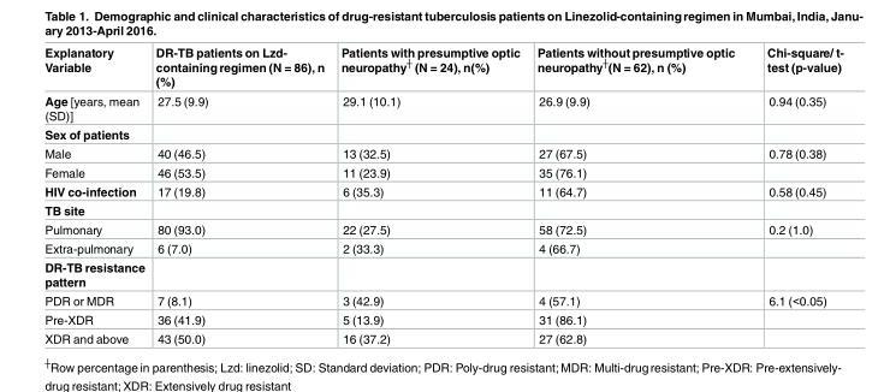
<table><thead><tr><td>Explanatory Variable</td><td>DR-TB patients on Lzd- containingregimen (N = 86), n (%)</td><td>Patients with presumptive optic neuropathy<sup>┼</sup> (N = 24), n(%)</td><td>Patients without presumptive optic neuropathy<sup>┼</sup>(N = 62), n (%)</td><td>Chi-square/ t- test (p-value)</td></tr></thead><tbody><tr><td>Age [years, mean (SD)]</td><td>27.5 (9.9)</td><td>29.1 (10.1)</td><td>26.9 (9.9)</td><td>0.94 (0.35)</td></tr><tr><td colspan="5">Sex of patients</td></tr><tr><td>Male</td><td>40 (46.5)</td><td>13 (32.5)</td><td>27 (67.5)</td><td>0.78 (0.38)</td></tr><tr><td>Female</td><td>46 (53.5)</td><td>11 (23.9)</td><td>35 (76.1)</td><td></td></tr><tr><td>HIV co-infection</td><td>17 (19.8)</td><td>6 (35.3)</td><td>11 (64.7)</td><td>0.58 (0.45)</td></tr><tr><td colspan="5">TB site</td></tr><tr><td>Pulmonary</td><td>80 (93.0)</td><td>22 (27.5)</td><td>58 (72.5)</td><td>0.2 (1.0)</td></tr><tr><td>Extra-pulmonary</td><td>6 (7.0)</td><td>2 (33.3)</td><td>4 (66.7)</td><td></td></tr><tr><td colspan="5">DR-TB resistance pattern</td></tr><tr><td>PDR or MDR</td><td>7 (8.1)</td><td>3 (42.9)</td><td>4 (57.1)</td><td>6.1 (&lt;0.05)</td></tr><tr><td>Pre-XDR</td><td>36 (41.9)</td><td>5 (13.9)</td><td>31 (86.1)</td><td></td></tr><tr><td>XDR and above</td><td>43 (50.0)</td><td>16 (37.2)</td><td>27 (62.8)</td><td></td></tr></tbody></table>